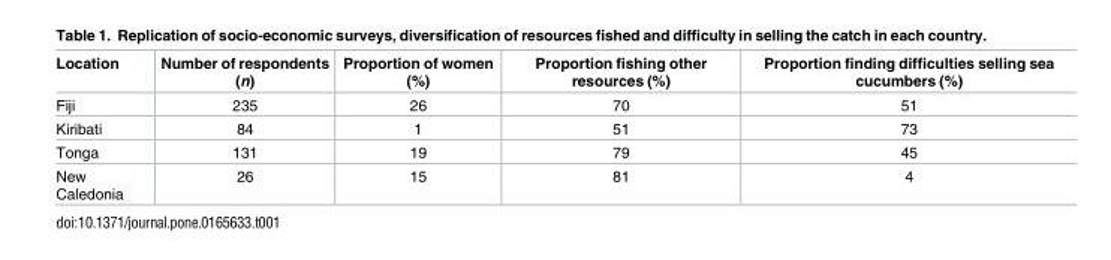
<table><thead><tr><td>Location</td><td>Number of respondents (n)</td><td>Proportion of women (%)</td><td>Proportion fishing other resources (%)</td><td>Proportion finding difficulties selling sea cucumbers (%)</td></tr></thead><tbody><tr><td>Fiji</td><td>235</td><td>26</td><td>70</td><td>51</td></tr><tr><td>Kiribati</td><td>84</td><td>1</td><td>51</td><td>73</td></tr><tr><td>Tonga</td><td>131</td><td>19</td><td>79</td><td>45</td></tr><tr><td>New Caledonia</td><td>26</td><td>15</td><td>81</td><td>4</td></tr></tbody></table>